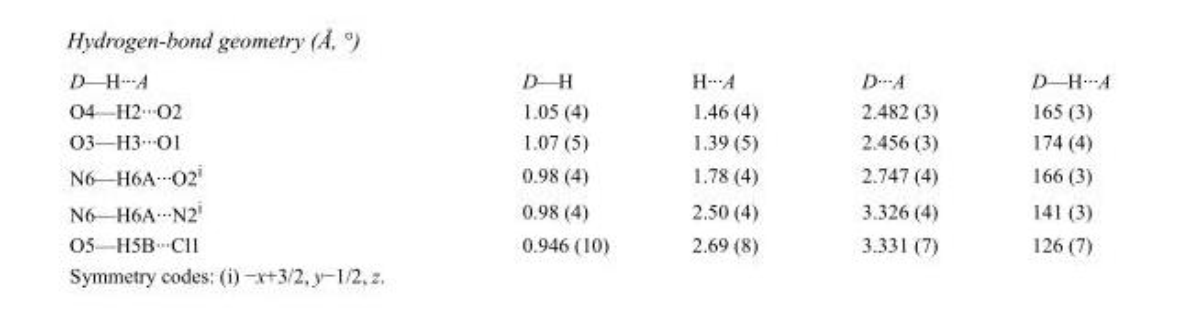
<table><tbody><tr><td>D—H···A</td><td>D—H</td><td>H···A</td><td>D···A</td><td>D—H···A</td></tr><tr><td>O4—H2···O2</td><td>1.05 (4)</td><td>1.46 (4)</td><td>2.482 (3)</td><td>165 (3)</td></tr><tr><td>O3—H3···O1</td><td>1.07 (5)</td><td>1.39 (5)</td><td>2.456 (3)</td><td>174 (4)</td></tr><tr><td>N6—H6A···O2<sup>i</sup></td><td>0.98 (4)</td><td>1.78 (4)</td><td>2.747 (4)</td><td>166 (3)</td></tr><tr><td>N6—H6A···N2<sup>i</sup></td><td>0.98 (4)</td><td>2.50 (4)</td><td>3.326 (4)</td><td>141 (3)</td></tr><tr><td>O5—H5B···Cl1</td><td>0.946 (10)</td><td>2.69 (8)</td><td>3.331 (7)</td><td>126 (7)</td></tr></tbody></table>